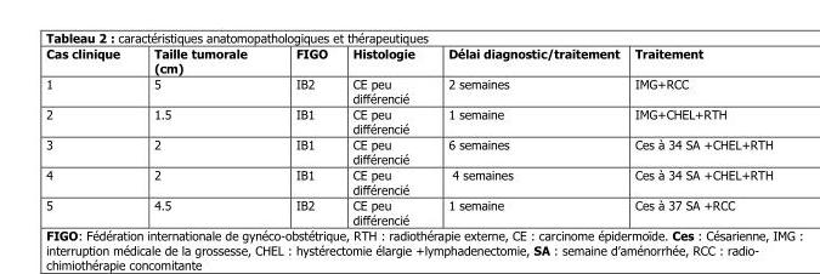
<table><thead><tr><td>Cas clinique</td><td>Taille tumorale (cm)</td><td>FIGO</td><td>Histologie</td><td>Délai diagnostic/traitement</td><td>Traitement</td></tr></thead><tbody><tr><td>1</td><td>5</td><td>IB2</td><td>CE peu différencié</td><td>2 semaines</td><td>IMG+RCC</td></tr><tr><td>2</td><td>1.5</td><td>IB1</td><td>CE peu différencié</td><td>1 semaine</td><td>IMG+CHEL+RTH</td></tr><tr><td>3</td><td>2</td><td>IB1</td><td>CE peu différencié</td><td>6 semaines</td><td>Ces à 34 SA +CHEL+RTH</td></tr><tr><td>4</td><td>2</td><td>IB1</td><td>CE peu différencié</td><td>4 semaines</td><td>Ces à 34 SA +CHEL+RTH</td></tr><tr><td>5</td><td>4.5</td><td>IB2</td><td>CE peu différencié</td><td>1 semaine</td><td>Ces à 37 SA +RCC</td></tr></tbody></table>